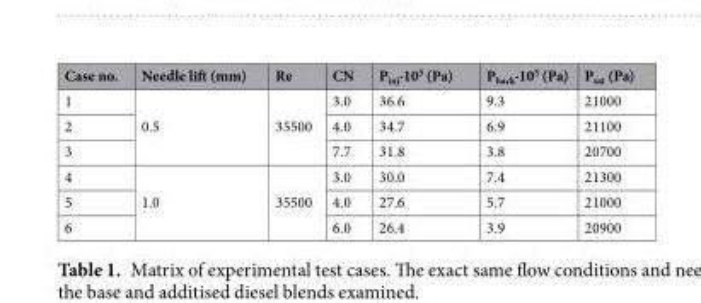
<table><thead><tr><td>Case no.</td><td>Needle lift (mm)</td><td>Re</td><td>CN</td><td>P<sub>inj</sub>∙10<sup>5</sup> (Pa)</td><td>P<sub>back</sub>∙10<sup>5</sup> (Pa)</td><td>P<sub>sat</sub> (Pa)</td></tr></thead><tbody><tr><td>1</td><td rowspan="3">0.5</td><td rowspan="3">35500</td><td>3.0</td><td>36.6</td><td>9.3</td><td>21000</td></tr><tr><td>2</td><td>4.0</td><td>34.7</td><td>6.9</td><td>21100</td></tr><tr><td>3</td><td>7.7</td><td>31.8</td><td>3.8</td><td>20700</td></tr><tr><td>4</td><td rowspan="3">1.0</td><td rowspan="3">35500</td><td>3.0</td><td>30.0</td><td>7.4</td><td>21300</td></tr><tr><td>5</td><td>4.0</td><td>27.6</td><td>5.7</td><td>21000</td></tr><tr><td>6</td><td>6.0</td><td>26.4</td><td>3.9</td><td>20900</td></tr></tbody></table>